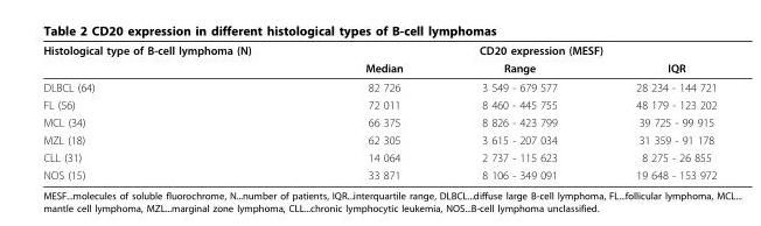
<table><thead><tr><td rowspan="2">Histological type of B-cell lymphoma (N)</td><td colspan="3">CD20 expression (MESF)</td></tr><tr><td>Median</td><td>Range</td><td>IQR</td></tr></thead><tbody><tr><td>DLBCL (64)</td><td>82 726</td><td>3 549 - 679 577</td><td>28 234 - 144 721</td></tr><tr><td>FL (56)</td><td>72 011</td><td>8 460 - 445 755</td><td>48 179 - 123 202</td></tr><tr><td>MCL (34)</td><td>66 375</td><td>8 826 - 423 799</td><td>39 725 - 99 915</td></tr><tr><td>MZL (18)</td><td>62 305</td><td>3 615 - 207 034</td><td>31 359 - 91 178</td></tr><tr><td>CLL (31)</td><td>14 064</td><td>2 737 - 115 623</td><td>8 275 - 26 855</td></tr><tr><td>NOS (15)</td><td>33 871</td><td>8 106 - 349 091</td><td>19 648 - 153 972</td></tr></tbody></table>